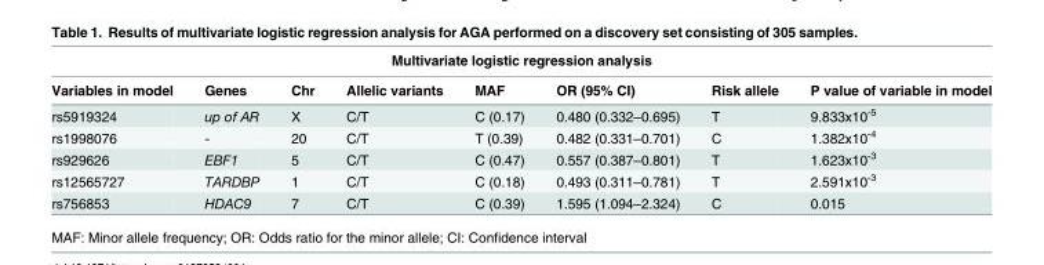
<table><thead><tr><td colspan="8">Multivariate logistic regression analysis</td></tr><tr><td>Variables in model</td><td>Genes</td><td>Chr</td><td>Allelic variants</td><td>MAF</td><td>OR (95% CI)</td><td>Risk allele</td><td>P value of variable in model</td></tr></thead><tbody><tr><td>rs5919324</td><td>up of AR</td><td>X</td><td>C/T</td><td>C (0.17)</td><td>0.480 (0.332–0.695)</td><td>T</td><td>9.833x10<sup>-5</sup></td></tr><tr><td>rs1998076</td><td>-</td><td>20</td><td>C/T</td><td>T (0.39)</td><td>0.482 (0.331–0.701)</td><td>C</td><td>1.382x10<sup>-4</sup></td></tr><tr><td>rs929626</td><td>EBF1</td><td>5</td><td>C/T</td><td>C (0.47)</td><td>0.557 (0.387–0.801)</td><td>T</td><td>1.623x10<sup>-3</sup></td></tr><tr><td>rs12565727</td><td>TARDBP</td><td>1</td><td>C/T</td><td>C (0.18)</td><td>0.493 (0.311–0.781)</td><td>T</td><td>2.591x10<sup>-3</sup></td></tr><tr><td>rs756853</td><td>HDAC9</td><td>7</td><td>C/T</td><td>C (0.39)</td><td>1.595 (1.094–2.324)</td><td>C</td><td>0.015</td></tr></tbody></table>